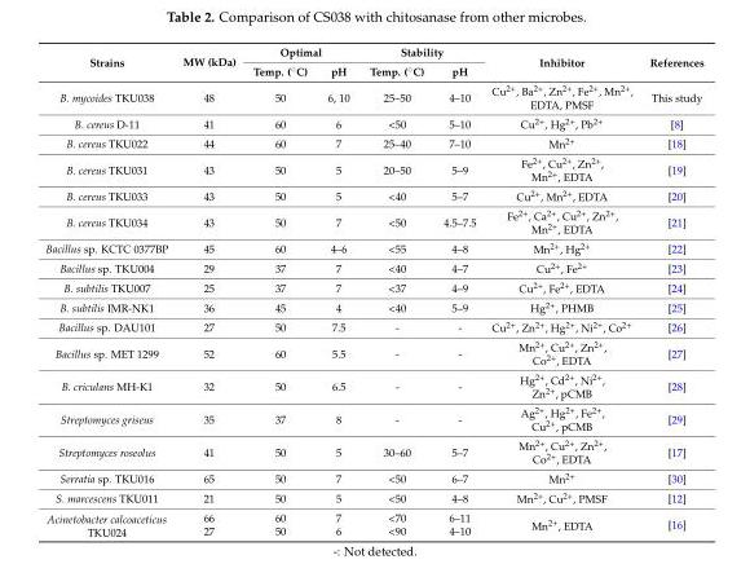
<table><thead><tr><td rowspan="2">Strains</td><td rowspan="2">MW (kDa)</td><td colspan="2">Optimal</td><td colspan="2">Stability</td><td rowspan="2">Inhibitor</td><td rowspan="2">References</td></tr><tr><td>Temp. (˝C)</td><td>pH</td><td>Temp. (˝C)</td><td>pH</td></tr></thead><tbody><tr><td>B. mycoides TKU038</td><td>48</td><td>50</td><td>6, 10</td><td>25–50</td><td>4–10</td><td>Cu<sup>2+</sup>, Ba<sup>2+</sup>, Zn<sup>2+</sup>, Fe<sup>2+</sup>, Mn<sup>2+</sup>, EDTA, PMSF</td><td>This study</td></tr><tr><td>B. cereus D-11</td><td>41</td><td>60</td><td>6</td><td>&lt;50</td><td>5–10</td><td>Cu<sup>2+</sup>, Hg<sup>2+</sup>, Pb<sup>2+</sup></td><td>[8]</td></tr><tr><td>B. cereus TKU022</td><td>44</td><td>60</td><td>7</td><td>25–40</td><td>7–10</td><td>Mn<sup>2+</sup></td><td>[18]</td></tr><tr><td>B. cereus TKU031</td><td>43</td><td>50</td><td>5</td><td>20–50</td><td>5–9</td><td>Fe<sup>2+</sup>, Cu<sup>2+</sup>, Zn<sup>2+</sup>, Mn<sup>2+</sup>, EDTA</td><td>[19]</td></tr><tr><td>B. cereus TKU033</td><td>43</td><td>50</td><td>5</td><td>&lt;40</td><td>5–7</td><td>Cu<sup>2+</sup>, Mn<sup>2+</sup>, EDTA</td><td>[20]</td></tr><tr><td>B. cereus TKU034</td><td>43</td><td>50</td><td>7</td><td>&lt;50</td><td>4.5–7.5</td><td>Fe<sup>2+</sup>, Ca<sup>2+</sup>, Cu<sup>2+</sup>, Zn<sup>2+</sup>, Mn<sup>2+</sup>, EDTA</td><td>[21]</td></tr><tr><td>Bacillus sp. KCTC 0377BP</td><td>45</td><td>60</td><td>4–6</td><td>&lt;55</td><td>4–8</td><td>Mn<sup>2+</sup>, Hg<sup>2+</sup></td><td>[22]</td></tr><tr><td>Bacillus sp. TKU004</td><td>29</td><td>37</td><td>7</td><td>&lt;40</td><td>4–7</td><td>Cu<sup>2+</sup>, Fe<sup>2+</sup></td><td>[23]</td></tr><tr><td>B. subtilis TKU007</td><td>25</td><td>37</td><td>7</td><td>&lt;37</td><td>4–9</td><td>Cu<sup>2+</sup>, Fe<sup>2+</sup>, EDTA</td><td>[24]</td></tr><tr><td>B. subtilis IMR-NK1</td><td>36</td><td>45</td><td>4</td><td>&lt;40</td><td>5–9</td><td>Hg<sup>2+</sup>, PHMB</td><td>[25]</td></tr><tr><td>Bacillus sp. DAU101</td><td>27</td><td>50</td><td>7.5</td><td>-</td><td>-</td><td>Cu<sup>2+</sup>, Zn<sup>2+</sup>, Hg<sup>2+</sup>, Ni<sup>2+</sup>, Co<sup>2+</sup></td><td>[26]</td></tr><tr><td>Bacillus sp. MET 1299</td><td>52</td><td>60</td><td>5.5</td><td>-</td><td>-</td><td>Mn<sup>2+</sup>, Cu<sup>2+</sup>, Zn<sup>2+</sup>, Co<sup>2+</sup>, EDTA</td><td>[27]</td></tr><tr><td>B. criculans MH-K1</td><td>32</td><td>50</td><td>6.5</td><td>-</td><td>-</td><td>Hg<sup>2+</sup>, Cd<sup>2+</sup>, Ni<sup>2+</sup>, Zn<sup>2+</sup>, pCMB</td><td>[28]</td></tr><tr><td>Streptomyces griseus</td><td>35</td><td>37</td><td>8</td><td>-</td><td>-</td><td>Ag<sup>2+</sup>, Hg<sup>2+</sup>, Fe<sup>2+</sup>, Cu<sup>2+</sup>, pCMB</td><td>[29]</td></tr><tr><td>Streptomyces roseolus</td><td>41</td><td>50</td><td>5</td><td>30–60</td><td>5–7</td><td>Mn<sup>2+</sup>, Cu<sup>2+</sup>, Zn<sup>2+</sup>, Co<sup>2+</sup>, EDTA</td><td>[17]</td></tr><tr><td>Serratia sp. TKU016</td><td>65</td><td>50</td><td>7</td><td>&lt;50</td><td>6–7</td><td>Mn<sup>2+</sup></td><td>[30]</td></tr><tr><td>S. marcescens TKU011</td><td>21</td><td>50</td><td>5</td><td>&lt;50</td><td>4–8</td><td>Mn<sup>2+</sup>, Cu<sup>2+</sup>, PMSF</td><td>[12]</td></tr><tr><td rowspan="2">Acinetobacter calcoaceticus TKU024</td><td>66</td><td>60</td><td>7</td><td>&lt;70</td><td>6–11</td><td rowspan="2">Mn<sup>2+</sup>, EDTA</td><td rowspan="2">[16]</td></tr><tr><td>27</td><td>50</td><td>6</td><td>&lt;90</td><td>4–10</td></tr></tbody></table>